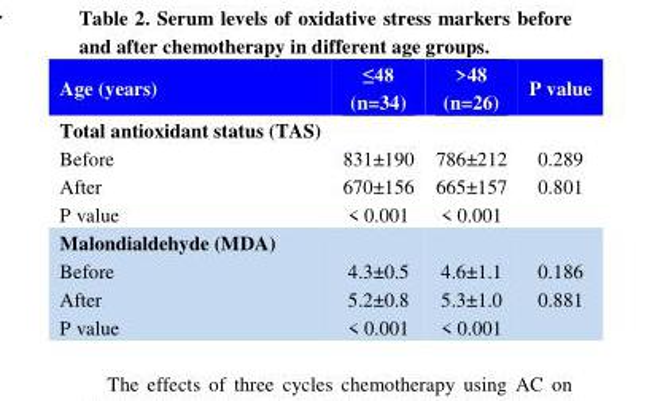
<table><thead><tr><td>Age (years)</td><td>≤48 (n=34)</td><td>&gt;48 (n=26)</td><td>P value</td></tr></thead><tbody><tr><td colspan="4">Total antioxidant status (TAS)</td></tr><tr><td>Before After P value</td><td>831±190 670±156 &lt; 0.001</td><td>786±212 665±157 &lt; 0.001</td><td>0.289 0.801</td></tr><tr><td colspan="4">Malondialdehyde (MDA)</td></tr><tr><td>Before After P value</td><td>4.3±0.5 5.2±0.8 &lt; 0.001</td><td>4.6±1.1 5.3±1.0 &lt; 0.001</td><td>0.186 0.881</td></tr></tbody></table>